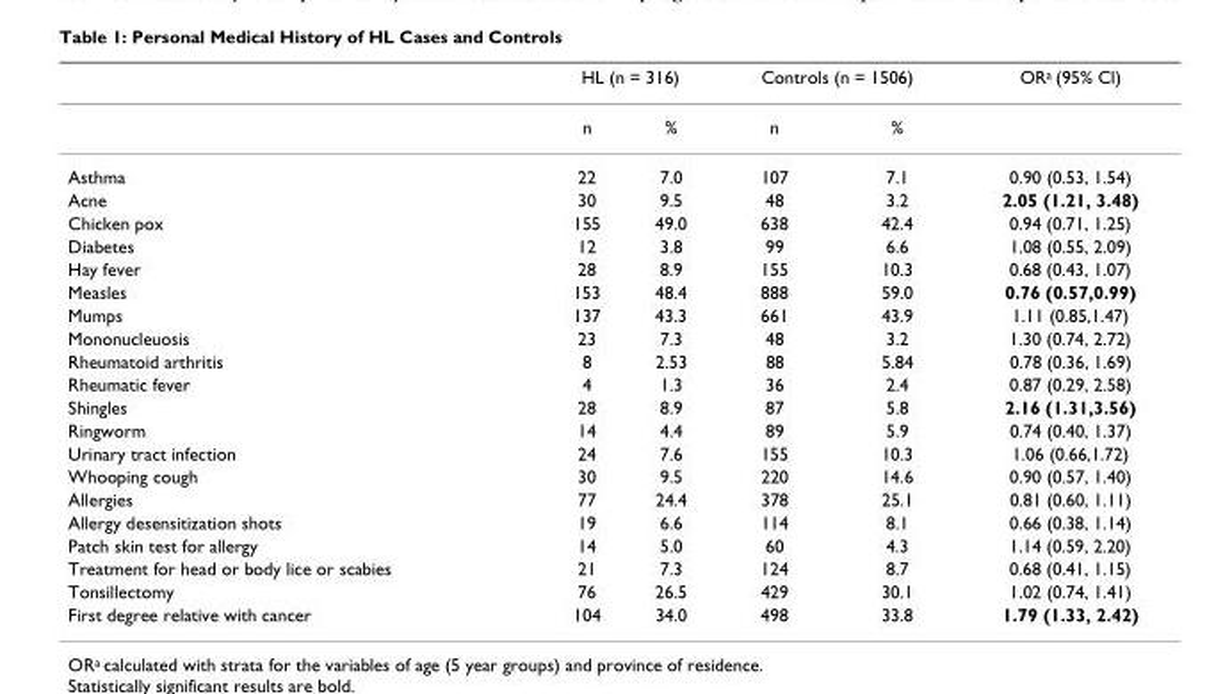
<table><thead><tr><td rowspan="2"></td><td colspan="2">HL (n = 316)</td><td colspan="2">Controls (n = 1506)</td><td rowspan="2">OR<sup>a</sup> (95% Cl)</td></tr><tr><td>n</td><td>%</td><td>n</td><td>%</td></tr></thead><tbody><tr><td>Asthma</td><td>22</td><td>7.0</td><td>107</td><td>7.1</td><td>0.90 (0.53, 1.54)</td></tr><tr><td>Acne</td><td>30</td><td>9.5</td><td>48</td><td>3.2</td><td>2.05 (1.21, 3.48)</td></tr><tr><td>Chicken pox</td><td>155</td><td>49.0</td><td>638</td><td>42.4</td><td>0.94 (0.71, 1.25)</td></tr><tr><td>Diabetes</td><td>12</td><td>3.8</td><td>99</td><td>6.6</td><td>1.08 (0.55, 2.09)</td></tr><tr><td>Hay fever</td><td>28</td><td>8.9</td><td>155</td><td>10.3</td><td>0.68 (0.43, 1.07)</td></tr><tr><td>Measles</td><td>153</td><td>48.4</td><td>888</td><td>59.0</td><td>0.76 (0.57,0.99)</td></tr><tr><td>Mumps</td><td>137</td><td>43.3</td><td>661</td><td>43.9</td><td>1.11 (0.85,1.47)</td></tr><tr><td>Mononucleuosis</td><td>23</td><td>7.3</td><td>48</td><td>3.2</td><td>1.30 (0.74, 2.72)</td></tr><tr><td>Rheumatoid arthritis</td><td>8</td><td>2.53</td><td>88</td><td>5.84</td><td>0.78 (0.36, 1.69)</td></tr><tr><td>Rheumatic fever</td><td>4</td><td>1.3</td><td>36</td><td>2.4</td><td>0.87 (0.29, 2.58)</td></tr><tr><td>Shingles</td><td>28</td><td>8.9</td><td>87</td><td>5.8</td><td>2.16 (1.31,3.56)</td></tr><tr><td>Ringworm</td><td>14</td><td>4.4</td><td>89</td><td>5.9</td><td>0.74 (0.40, 1.37)</td></tr><tr><td>Urinary tract infection</td><td>24</td><td>7.6</td><td>155</td><td>10.3</td><td>1.06 (0.66,1.72)</td></tr><tr><td>Whooping cough</td><td>30</td><td>9.5</td><td>220</td><td>14.6</td><td>0.90 (0.57, 1.40)</td></tr><tr><td>Allergies</td><td>77</td><td>24.4</td><td>378</td><td>25.1</td><td>0.81 (0.60, 1.11)</td></tr><tr><td>Allergy desensitization shots</td><td>19</td><td>6.6</td><td>114</td><td>8.1</td><td>0.66 (0.38, 1.14)</td></tr><tr><td>Patch skin test for allergy</td><td>14</td><td>5.0</td><td>60</td><td>4.3</td><td>1.14 (0.59, 2.20)</td></tr><tr><td>Treatment for head or body lice or scabies</td><td>21</td><td>7.3</td><td>124</td><td>8.7</td><td>0.68 (0.41, 1.15)</td></tr><tr><td>Tonsillectomy</td><td>76</td><td>26.5</td><td>429</td><td>30.1</td><td>1.02 (0.74, 1.41)</td></tr><tr><td>First degree relative with cancer</td><td>104</td><td>34.0</td><td>498</td><td>33.8</td><td>1.79 (1.33, 2.42)</td></tr></tbody></table>